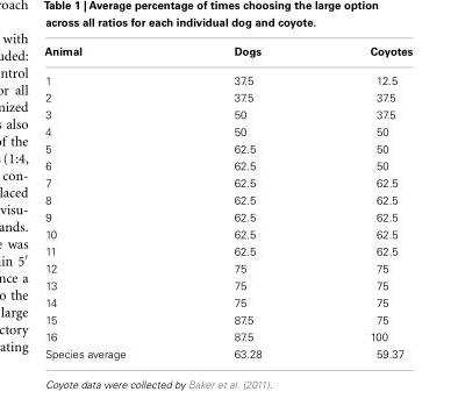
<table><thead><tr><td>Animal</td><td>Dogs</td><td>Coyotes</td></tr></thead><tbody><tr><td>1</td><td>37.5</td><td>12.5</td></tr><tr><td>2</td><td>37.5</td><td>37.5</td></tr><tr><td>3</td><td>50</td><td>37.5</td></tr><tr><td>4</td><td>50</td><td>50</td></tr><tr><td>5</td><td>62.5</td><td>50</td></tr><tr><td>6</td><td>62.5</td><td>50</td></tr><tr><td>7</td><td>62.5</td><td>62.5</td></tr><tr><td>8</td><td>62.5</td><td>62.5</td></tr><tr><td>9</td><td>62.5</td><td>62.5</td></tr><tr><td>10</td><td>62.5</td><td>62.5</td></tr><tr><td>11</td><td>62.5</td><td>62.5</td></tr><tr><td>12</td><td>75</td><td>75</td></tr><tr><td>13</td><td>75</td><td>75</td></tr><tr><td>14</td><td>75</td><td>75</td></tr><tr><td>15</td><td>87.5</td><td>75</td></tr><tr><td>16</td><td>87.5</td><td>100</td></tr><tr><td>Species average</td><td>63.28</td><td>59.37</td></tr></tbody></table>